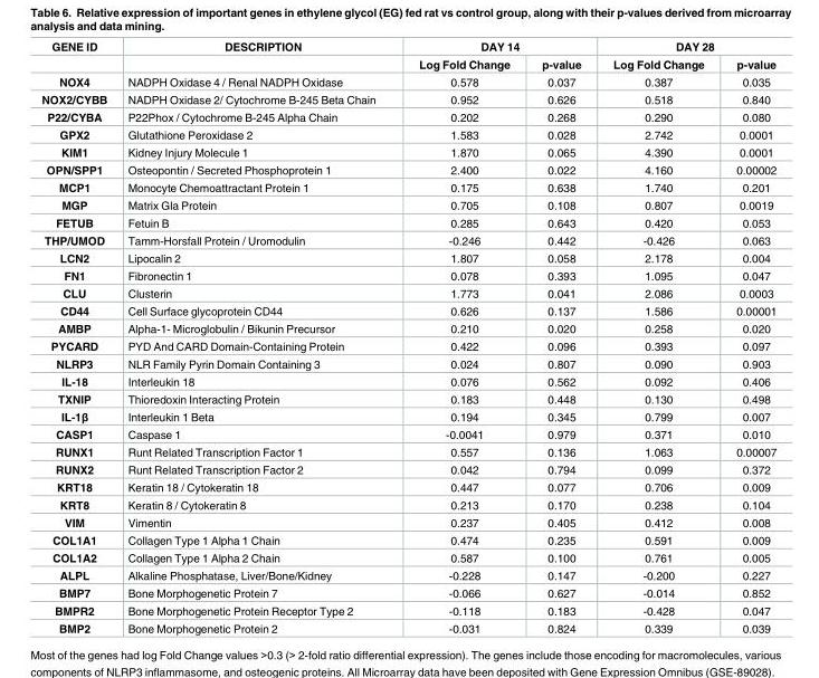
<table><thead><tr><td rowspan="2">GENE ID</td><td rowspan="2">DESCRIPTION</td><td colspan="2">DAY 14</td><td colspan="2">DAY 28</td></tr><tr><td>Log Fold Change</td><td>p-value</td><td>Log Fold Change</td><td>p-value</td></tr></thead><tbody><tr><td>NOX4</td><td>NADPH Oxidase 4 / Renal NADPH Oxidase</td><td>0.578</td><td>0.037</td><td>0.387</td><td>0.035</td></tr><tr><td>NOX2/CYBB</td><td>NADPH Oxidase 2/ Cytochrome B-245 Beta Chain</td><td>0.952</td><td>0.626</td><td>0.518</td><td>0.840</td></tr><tr><td>P22/CYBA</td><td>P22Phox / Cytochrome B-245 Alpha Chain</td><td>0.202</td><td>0.268</td><td>0.290</td><td>0.080</td></tr><tr><td>GPX2</td><td>Glutathione Peroxidase 2</td><td>1.583</td><td>0.028</td><td>2.742</td><td>0.0001</td></tr><tr><td>KIM1</td><td>Kidney Injury Molecule 1</td><td>1.870</td><td>0.065</td><td>4.390</td><td>0.0001</td></tr><tr><td>OPN/SPP1</td><td>Osteopontin / Secreted Phosphoprotein 1</td><td>2.400</td><td>0.022</td><td>4.160</td><td>0.00002</td></tr><tr><td>MCP1</td><td>Monocyte Chemoattractant Protein 1</td><td>0.175</td><td>0.638</td><td>1.740</td><td>0.201</td></tr><tr><td>MGP</td><td>Matrix Gla Protein</td><td>0.705</td><td>0.108</td><td>0.807</td><td>0.0019</td></tr><tr><td>FETUB</td><td>Fetuin B</td><td>0.285</td><td>0.643</td><td>0.420</td><td>0.053</td></tr><tr><td>THP/UMOD</td><td>Tamm-Horsfall Protein / Uromodulin</td><td>-0.246</td><td>0.442</td><td>-0.426</td><td>0.063</td></tr><tr><td>LCN2</td><td>Lipocalin 2</td><td>1.807</td><td>0.058</td><td>2.178</td><td>0.004</td></tr><tr><td>FN1</td><td>Fibronectin 1</td><td>0.078</td><td>0.393</td><td>1.095</td><td>0.047</td></tr><tr><td>CLU</td><td>Clusterin</td><td>1.773</td><td>0.041</td><td>2.086</td><td>0.0003</td></tr><tr><td>CD44</td><td>Cell Surface glycoprotein CD44</td><td>0.626</td><td>0.137</td><td>1.586</td><td>0.00001</td></tr><tr><td>AMBP</td><td>Alpha-1- Microglobulin / Bikunin Precursor</td><td>0.210</td><td>0.020</td><td>0.258</td><td>0.020</td></tr><tr><td>PYCARD</td><td>PYD And CARD Domain-Containing Protein</td><td>0.422</td><td>0.096</td><td>0.393</td><td>0.097</td></tr><tr><td>NLRP3</td><td>NLR Family Pyrin Domain Containing 3</td><td>0.024</td><td>0.807</td><td>0.090</td><td>0.903</td></tr><tr><td>IL-18</td><td>Interleukin 18</td><td>0.076</td><td>0.562</td><td>0.092</td><td>0.406</td></tr><tr><td>TXNIP</td><td>Thioredoxin Interacting Protein</td><td>0.183</td><td>0.448</td><td>0.130</td><td>0.498</td></tr><tr><td>IL-1β</td><td>Interleukin 1 Beta</td><td>0.194</td><td>0.345</td><td>0.799</td><td>0.007</td></tr><tr><td>CASP1</td><td>Caspase 1</td><td>-0.0041</td><td>0.979</td><td>0.371</td><td>0.010</td></tr><tr><td>RUNX1</td><td>Runt Related Transcription Factor 1</td><td>0.557</td><td>0.136</td><td>1.063</td><td>0.00007</td></tr><tr><td>RUNX2</td><td>Runt Related Transcription Factor 2</td><td>0.042</td><td>0.794</td><td>0.099</td><td>0.372</td></tr><tr><td>KRT18</td><td>Keratin 18 / Cytokeratin 18</td><td>0.447</td><td>0.077</td><td>0.706</td><td>0.009</td></tr><tr><td>KRT8</td><td>Keratin 8 / Cytokeratin 8</td><td>0.213</td><td>0.170</td><td>0.238</td><td>0.104</td></tr><tr><td>VIM</td><td>Vimentin</td><td>0.237</td><td>0.405</td><td>0.412</td><td>0.008</td></tr><tr><td>COL1A1</td><td>Collagen Type 1 Alpha 1 Chain</td><td>0.474</td><td>0.235</td><td>0.591</td><td>0.009</td></tr><tr><td>COL1A2</td><td>Collagen Type 1 Alpha 2 Chain</td><td>0.587</td><td>0.100</td><td>0.761</td><td>0.005</td></tr><tr><td>ALPL</td><td>Alkaline Phosphatase, Liver/Bone/Kidney</td><td>-0.228</td><td>0.147</td><td>-0.200</td><td>0.227</td></tr><tr><td>BMP7</td><td>Bone Morphogenetic Protein 7</td><td>-0.066</td><td>0.627</td><td>-0.014</td><td>0.852</td></tr><tr><td>BMPR2</td><td>Bone Morphogenetic Protein Receptor Type 2</td><td>-0.118</td><td>0.183</td><td>-0.428</td><td>0.047</td></tr><tr><td>BMP2</td><td>Bone Morphogenetic Protein 2</td><td>-0.031</td><td>0.824</td><td>0.339</td><td>0.039</td></tr></tbody></table>